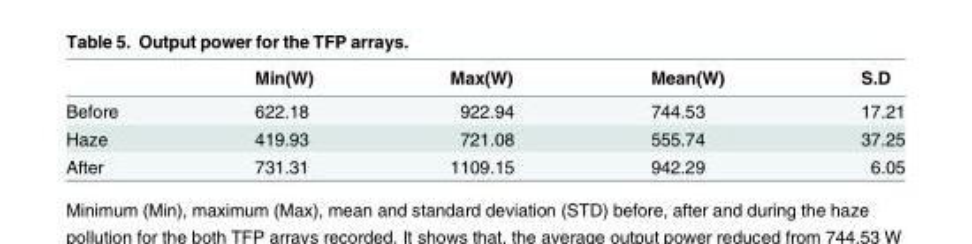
<table><thead><tr><td></td><td>Min(W)</td><td>Max(W)</td><td>Mean(W)</td><td>S.D</td></tr></thead><tbody><tr><td>Before</td><td>622.18</td><td>922.94</td><td>744.53</td><td>17.21</td></tr><tr><td>Haze</td><td>419.93</td><td>721.08</td><td>555.74</td><td>37.25</td></tr><tr><td>After</td><td>731.31</td><td>1109.15</td><td>942.29</td><td>6.05</td></tr></tbody></table>